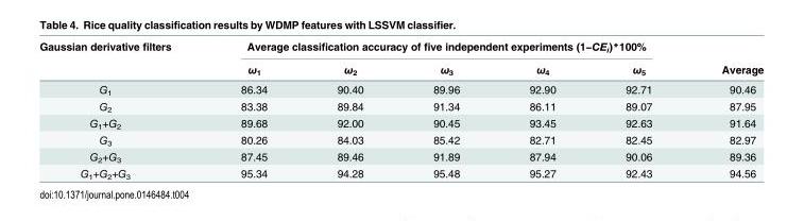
<table><thead><tr><td rowspan="2">Gaussian derivative filters</td><td colspan="5">Average classification accuracy of five independent experiments (1−CE<sub>i</sub>)*100%</td><td rowspan="2">Average</td></tr><tr><td>ω<sub>1</sub></td><td>ω<sub>2</sub></td><td>ω<sub>3</sub></td><td>ω<sub>4</sub></td><td>ω<sub>5</sub></td></tr></thead><tbody><tr><td>G<sub>1</sub></td><td>86.34</td><td>90.40</td><td>89.96</td><td>92.90</td><td>92.71</td><td>90.46</td></tr><tr><td>G<sub>2</sub></td><td>83.38</td><td>89.84</td><td>91.34</td><td>86.11</td><td>89.07</td><td>87.95</td></tr><tr><td>G<sub>1</sub>+G<sub>2</sub></td><td>89.68</td><td>92.00</td><td>90.45</td><td>93.45</td><td>92.63</td><td>91.64</td></tr><tr><td>G<sub>3</sub></td><td>80.26</td><td>84.03</td><td>85.42</td><td>82.71</td><td>82.45</td><td>82.97</td></tr><tr><td>G<sub>2</sub>+G<sub>3</sub></td><td>87.45</td><td>89.46</td><td>91.89</td><td>87.94</td><td>90.06</td><td>89.36</td></tr><tr><td>G<sub>1</sub>+G<sub>2</sub>+G<sub>3</sub></td><td>95.34</td><td>94.28</td><td>95.48</td><td>95.27</td><td>92.43</td><td>94.56</td></tr></tbody></table>